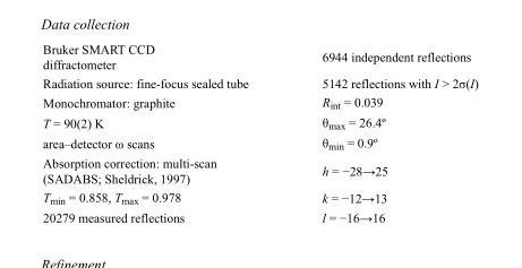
<table><tbody><tr><td>Bruker SMART CCD diffractometer</td><td>6944 independent reflections</td></tr><tr><td>Radiation source: fine-focus sealed tube</td><td>5142 reflections with I &gt; 2σ(I)</td></tr><tr><td>Monochromator: graphite</td><td>R<sub>int</sub> = 0.039</td></tr><tr><td>T = 90(2) K</td><td>θ<sub>max</sub> = 26.4º</td></tr><tr><td>area–detector ω scans</td><td>θ<sub>min</sub> = 0.9º</td></tr><tr><td>Absorption correction: multi-scan (SADABS; Sheldrick, 1997)</td><td>h = −28→25</td></tr><tr><td>T<sub>min</sub> = 0.858, T<sub>max</sub> = 0.978</td><td>k = −12→13</td></tr><tr><td>20279 measured reflections</td><td>l = −16→16</td></tr></tbody></table>